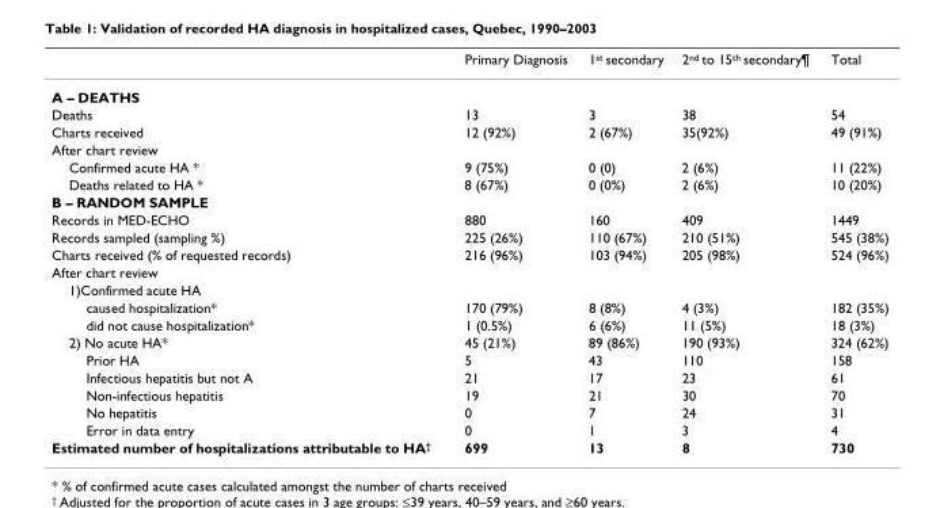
<table><thead><tr><td></td><td>Primary Diagnosis</td><td>1<sup>st</sup> secondary</td><td>2<sup>nd</sup> to 15<sup>th</sup> secondary¶</td><td>Total</td></tr></thead><tbody><tr><td colspan="5">A – DEATHS</td></tr><tr><td>Deaths</td><td>13</td><td>3</td><td>38</td><td>54</td></tr><tr><td>Charts received</td><td>12 (92%)</td><td>2 (67%)</td><td>35(92%)</td><td>49 (91%)</td></tr><tr><td colspan="5">After chart review</td></tr><tr><td>Confirmed acute HA *</td><td>9 (75%)</td><td>0 (0)</td><td>2 (6%)</td><td>11 (22%)</td></tr><tr><td>Deaths related to HA *</td><td>8 (67%)</td><td>0 (0%)</td><td>2 (6%)</td><td>10 (20%)</td></tr><tr><td colspan="5">B – RANDOM SAMPLE</td></tr><tr><td>Records in MED-ECHO</td><td>880</td><td>160</td><td>409</td><td>1449</td></tr><tr><td>Records sampled (sampling %)</td><td>225 (26%)</td><td>110 (67%)</td><td>210 (51%)</td><td>545 (38%)</td></tr><tr><td>Charts received (% of requested records)</td><td>216 (96%)</td><td>103 (94%)</td><td>205 (98%)</td><td>524 (96%)</td></tr><tr><td colspan="5">After chart review</td></tr><tr><td colspan="5">1)Confirmed acute HA</td></tr><tr><td>caused hospitalization*</td><td>170 (79%)</td><td>8 (8%)</td><td>4 (3%)</td><td>182 (35%)</td></tr><tr><td>did not cause hospitalization*</td><td>1 (0.5%)</td><td>6 (6%)</td><td>11 (5%)</td><td>18 (3%)</td></tr><tr><td>2) No acute HA*</td><td>45 (21%)</td><td>89 (86%)</td><td>190 (93%)</td><td>324 (62%)</td></tr><tr><td>Prior HA</td><td>5</td><td>43</td><td>110</td><td>158</td></tr><tr><td>Infectious hepatitis but not A</td><td>21</td><td>17</td><td>23</td><td>61</td></tr><tr><td>Non-infectious hepatitis</td><td>19</td><td>21</td><td>30</td><td>70</td></tr><tr><td>No hepatitis</td><td>0</td><td>7</td><td>24</td><td>31</td></tr><tr><td>Error in data entry</td><td>0</td><td>1</td><td>3</td><td>4</td></tr><tr><td>Estimated number of hospitalizations attributable to HA<sup>†</sup></td><td>699</td><td>13</td><td>8</td><td>730</td></tr></tbody></table>